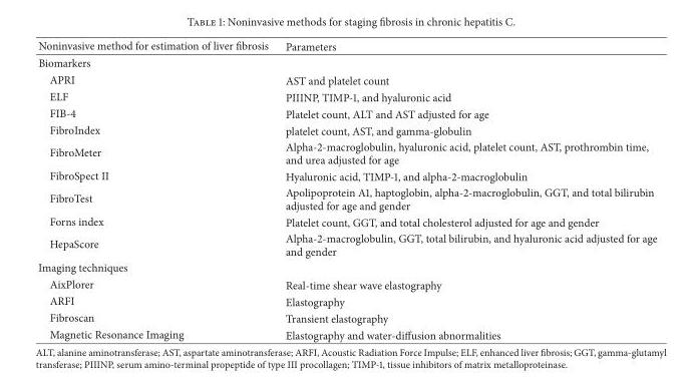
<table><thead><tr><td>Noninvasive method for estimation of liver fibrosis</td><td>Parameters</td></tr></thead><tbody><tr><td colspan="2">Biomarkers</td></tr><tr><td>APRI</td><td>AST and platelet count</td></tr><tr><td>ELF</td><td>PIIINP, TIMP-1, and hyaluronic acid</td></tr><tr><td>FIB-4</td><td>Platelet count, ALT and AST adjusted for age</td></tr><tr><td>FibroIndex</td><td>platelet count, AST, and gamma-globulin</td></tr><tr><td>FibroMeter</td><td>Alpha-2-macroglobulin, hyaluronic acid, platelet count, AST, prothrombin time, and urea adjusted for age</td></tr><tr><td>FibroSpect II</td><td>Hyaluronic acid, TIMP-1, and alpha-2-macroglobulin</td></tr><tr><td>FibroTest</td><td>Apolipoprotein A1, haptoglobin, alpha-2-macroglobulin, GGT, and total bilirubin adjusted for age and gender</td></tr><tr><td>Forns index</td><td>Platelet count, GGT, and total cholesterol adjusted for age and gender</td></tr><tr><td>HepaScore</td><td>Alpha-2-macroglobulin, GGT, total bilirubin, and hyaluronic acid adjusted for age and gender</td></tr><tr><td colspan="2">Imaging techniques</td></tr><tr><td>AixPlorer</td><td>Real-time shear wave elastography</td></tr><tr><td>ARFI</td><td>Elastography</td></tr><tr><td>Fibroscan</td><td>Transient elastography</td></tr><tr><td>Magnetic Resonance Imaging</td><td>Elastography and water-diffusion abnormalities</td></tr></tbody></table>